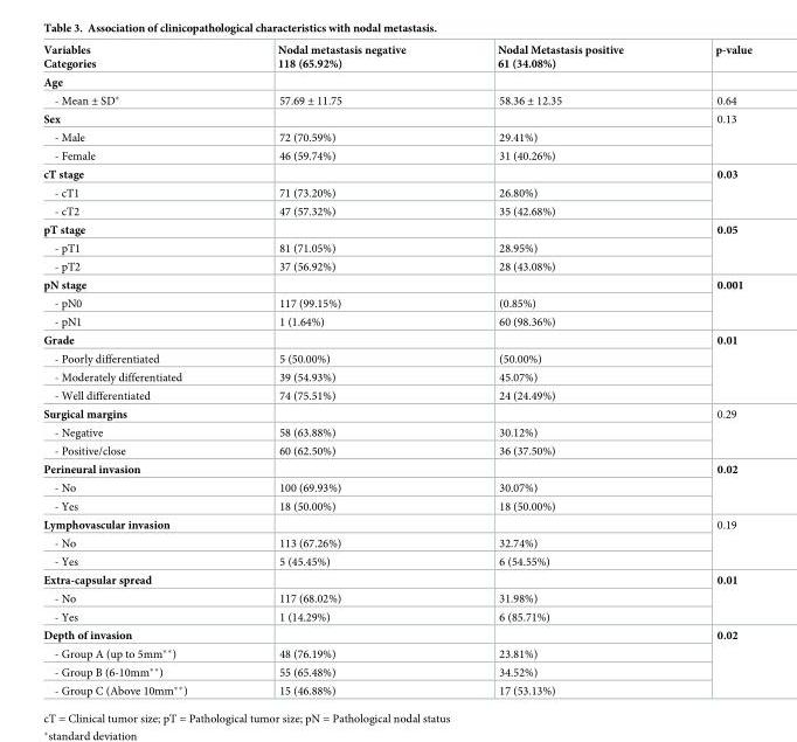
<table><thead><tr><td>Variables Categories</td><td>Nodal metastasis negative 118 (65.92%)</td><td>Nodal Metastasis positive 61 (34.08%)</td><td>p-value</td></tr></thead><tbody><tr><td colspan="4">Age</td></tr><tr><td>- Mean ± SD*</td><td>57.69 ± 11.75</td><td>58.36 ± 12.35</td><td>0.64</td></tr><tr><td colspan="3">Sex</td><td rowspan="3">0.13</td></tr><tr><td>- Male</td><td>72 (70.59%)</td><td>29.41%)</td></tr><tr><td>- Female</td><td>46 (59.74%)</td><td>31 (40.26%)</td></tr><tr><td colspan="3">cT stage</td><td rowspan="3">0.03</td></tr><tr><td>- cT1</td><td>71 (73.20%)</td><td>26.80%)</td></tr><tr><td>- cT2</td><td>47 (57.32%)</td><td>35 (42.68%)</td></tr><tr><td colspan="3">pT stage</td><td rowspan="3">0.05</td></tr><tr><td>- pT1</td><td>81 (71.05%)</td><td>28.95%)</td></tr><tr><td>- pT2</td><td>37 (56.92%)</td><td>28 (43.08%)</td></tr><tr><td colspan="3">pN stage</td><td rowspan="3">0.001</td></tr><tr><td>- pN0</td><td>117 (99.15%)</td><td>(0.85%)</td></tr><tr><td>- pN1</td><td>1 (1.64%)</td><td>60 (98.36%)</td></tr><tr><td colspan="3">Grade</td><td rowspan="4">0.01</td></tr><tr><td>- Poorly differentiated</td><td>5 (50.00%)</td><td>(50.00%)</td></tr><tr><td>- Moderately differentiated</td><td>39 (54.93%)</td><td>45.07%)</td></tr><tr><td>- Well differentiated</td><td>74 (75.51%)</td><td>24 (24.49%)</td></tr><tr><td colspan="3">Surgical margins</td><td rowspan="3">0.29</td></tr><tr><td>- Negative</td><td>58 (63.88%)</td><td>30.12%)</td></tr><tr><td>- Positive/close</td><td>60 (62.50%)</td><td>36 (37.50%)</td></tr><tr><td colspan="3">Perineural invasion</td><td rowspan="3">0.02</td></tr><tr><td>- No</td><td>100 (69.93%)</td><td>30.07%)</td></tr><tr><td>- Yes</td><td>18 (50.00%)</td><td>18 (50.00%)</td></tr><tr><td colspan="3">Lymphovascular invasion</td><td rowspan="3">0.19</td></tr><tr><td>- No</td><td>113 (67.26%)</td><td>32.74%)</td></tr><tr><td>- Yes</td><td>5 (45.45%)</td><td>6 (54.55%)</td></tr><tr><td colspan="3">Extra-capsular spread</td><td rowspan="3">0.01</td></tr><tr><td>- No</td><td>117 (68.02%)</td><td>31.98%)</td></tr><tr><td>- Yes</td><td>1 (14.29%)</td><td>6 (85.71%)</td></tr><tr><td colspan="3">Depth of invasion</td><td rowspan="4">0.02</td></tr><tr><td>- Group A (up to 5mm**)</td><td>48 (76.19%)</td><td>23.81%)</td></tr><tr><td>- Group B (6-10mm**)</td><td>55 (65.48%)</td><td>34.52%)</td></tr><tr><td>- Group C (Above 10mm**)</td><td>15 (46.88%)</td><td>17 (53.13%)</td></tr></tbody></table>